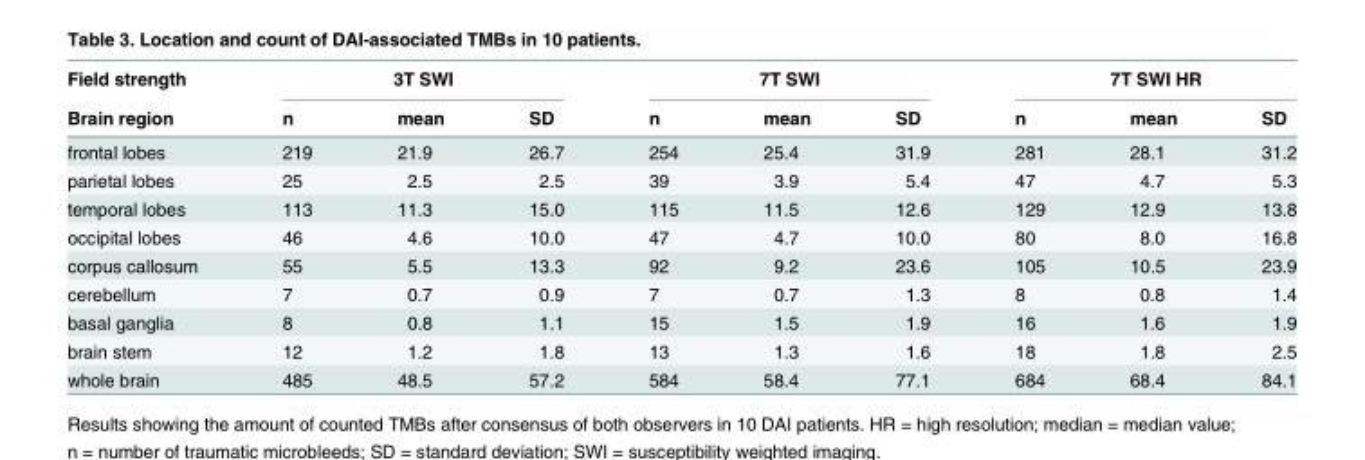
<table><thead><tr><td rowspan="2">Field strength Brain region</td><td colspan="3">3T SWI</td><td colspan="3">7T SWI</td><td colspan="3">7T SWI HR</td></tr><tr><td>n</td><td>mean</td><td>SD</td><td>n</td><td>mean</td><td>SD</td><td>n</td><td>mean</td><td>SD</td></tr></thead><tbody><tr><td>frontal lobes</td><td>219</td><td>21.9</td><td>26.7</td><td>254</td><td>25.4</td><td>31.9</td><td>281</td><td>28.1</td><td>31.2</td></tr><tr><td>parietal lobes</td><td>25</td><td>2.5</td><td>2.5</td><td>39</td><td>3.9</td><td>5.4</td><td>47</td><td>4.7</td><td>5.3</td></tr><tr><td>temporal lobes</td><td>113</td><td>11.3</td><td>15.0</td><td>115</td><td>11.5</td><td>12.6</td><td>129</td><td>12.9</td><td>13.8</td></tr><tr><td>occipital lobes</td><td>46</td><td>4.6</td><td>10.0</td><td>47</td><td>4.7</td><td>10.0</td><td>80</td><td>8.0</td><td>16.8</td></tr><tr><td>corpus callosum</td><td>55</td><td>5.5</td><td>13.3</td><td>92</td><td>9.2</td><td>23.6</td><td>105</td><td>10.5</td><td>23.9</td></tr><tr><td>cerebellum</td><td>7</td><td>0.7</td><td>0.9</td><td>7</td><td>0.7</td><td>1.3</td><td>8</td><td>0.8</td><td>1.4</td></tr><tr><td>basal ganglia</td><td>8</td><td>0.8</td><td>1.1</td><td>15</td><td>1.5</td><td>1.9</td><td>16</td><td>1.6</td><td>1.9</td></tr><tr><td>brain stem</td><td>12</td><td>1.2</td><td>1.8</td><td>13</td><td>1.3</td><td>1.6</td><td>18</td><td>1.8</td><td>2.5</td></tr><tr><td>whole brain</td><td>485</td><td>48.5</td><td>57.2</td><td>584</td><td>58.4</td><td>77.1</td><td>684</td><td>68.4</td><td>84.1</td></tr></tbody></table>